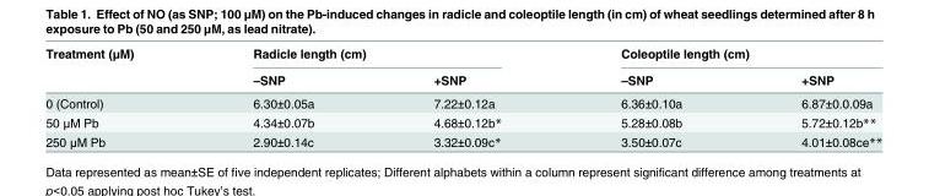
<table><thead><tr><td rowspan="2">Treatment (μM)</td><td colspan="2">Radicle length (cm)</td><td colspan="2">Coleoptile length (cm)</td></tr><tr><td>–SNP</td><td>+SNP</td><td>–SNP</td><td>+SNP</td></tr></thead><tbody><tr><td>0 (Control)</td><td>6.30±0.05a</td><td>7.22±0.12a</td><td>6.36±0.10a</td><td>6.87±0.0.09a</td></tr><tr><td>50 μM Pb</td><td>4.34±0.07b</td><td>4.68±0.12b*</td><td>5.28±0.08b</td><td>5.72±0.12b**</td></tr><tr><td>250 μM Pb</td><td>2.90±0.14c</td><td>3.32±0.09c*</td><td>3.50±0.07c</td><td>4.01±0.08ce**</td></tr></tbody></table>